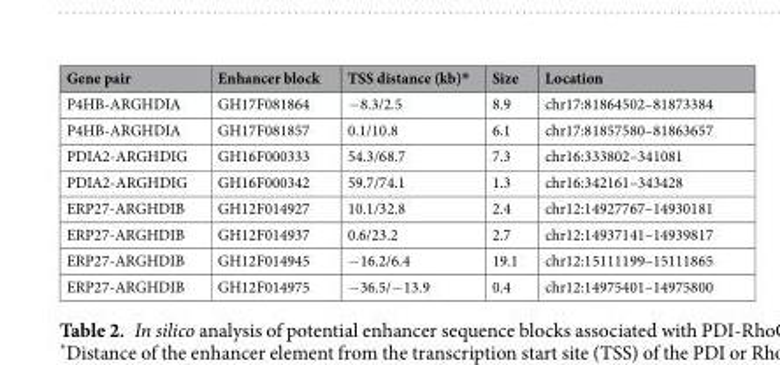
<table><thead><tr><td>Gene pair</td><td>Enhancer block</td><td>TSS distance (kb)*</td><td>Size</td><td>Location</td></tr></thead><tbody><tr><td>P4HB-ARGHDIA</td><td>GH17F081864</td><td>−8.3/2.5</td><td>8.9</td><td>chr17:81864502–81873384</td></tr><tr><td>P4HB-ARGHDIA</td><td>GH17F081857</td><td>0.1/10.8</td><td>6.1</td><td>chr17:81857580–81863657</td></tr><tr><td>PDIA2-ARGHDIG</td><td>GH16F000333</td><td>54.3/68.7</td><td>7.3</td><td>chr16:333802–341081</td></tr><tr><td>PDIA2-ARGHDIG</td><td>GH16F000342</td><td>59.7/74.1</td><td>1.3</td><td>chr16:342161–343428</td></tr><tr><td>ERP27-ARGHDIB</td><td>GH12F014927</td><td>10.1/32.8</td><td>2.4</td><td>chr12:14927767–14930181</td></tr><tr><td>ERP27-ARGHDIB</td><td>GH12F014937</td><td>0.6/23.2</td><td>2.7</td><td>chr12:14937141–14939817</td></tr><tr><td>ERP27-ARGHDIB</td><td>GH12F014945</td><td>−16.2/6.4</td><td>19.1</td><td>chr12:15111199–15111865</td></tr><tr><td>ERP27-ARGHDIB</td><td>GH12F014975</td><td>−36.5/−13.9</td><td>0.4</td><td>chr12:14975401–14975800</td></tr></tbody></table>